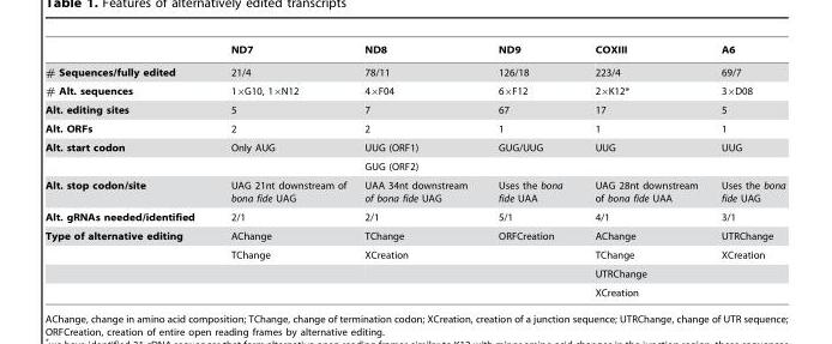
<table><thead><tr><td></td><td>ND7</td><td>ND8</td><td>ND9</td><td>COXIII</td><td>A6</td></tr></thead><tbody><tr><td># Sequences/fully edited</td><td>21/4</td><td>78/11</td><td>126/18</td><td>223/4</td><td>69/7</td></tr><tr><td># Alt. sequences</td><td>1×G10, 1×N12</td><td>4×F04</td><td>6×F12</td><td>2×K12*</td><td>3×D08</td></tr><tr><td>Alt. editing sites</td><td>5</td><td>7</td><td>67</td><td>17</td><td>5</td></tr><tr><td>Alt. ORFs</td><td>2</td><td>2</td><td>1</td><td>1</td><td>1</td></tr><tr><td rowspan="2">Alt. start codon</td><td>Only AUG</td><td>UUG (ORF1)</td><td>GUG/UUG</td><td>UUG</td><td>UUG</td></tr><tr><td></td><td>GUG (ORF2)</td><td></td><td></td><td></td></tr><tr><td>Alt. stop codon/site</td><td>UAG 21nt downstream of bona fide UAG</td><td>UAA 34nt downstream of bona fide UAG</td><td>Uses the bona fide UAA</td><td>UAG 28nt downstream of bona fide UAA</td><td>Uses the bona fide UAG</td></tr><tr><td>Alt. gRNAs needed/identified</td><td>2/1</td><td>2/1</td><td>5/1</td><td>4/1</td><td>3/1</td></tr><tr><td rowspan="4">Type of alternative editing</td><td>AChange</td><td>TChange</td><td>ORFCreation</td><td>AChange</td><td>UTRChange</td></tr><tr><td>TChange</td><td>XCreation</td><td></td><td>TChange</td><td>XCreation</td></tr><tr><td></td><td></td><td></td><td>UTRChange</td><td></td></tr><tr><td></td><td></td><td></td><td>XCreation</td><td></td></tr></tbody></table>